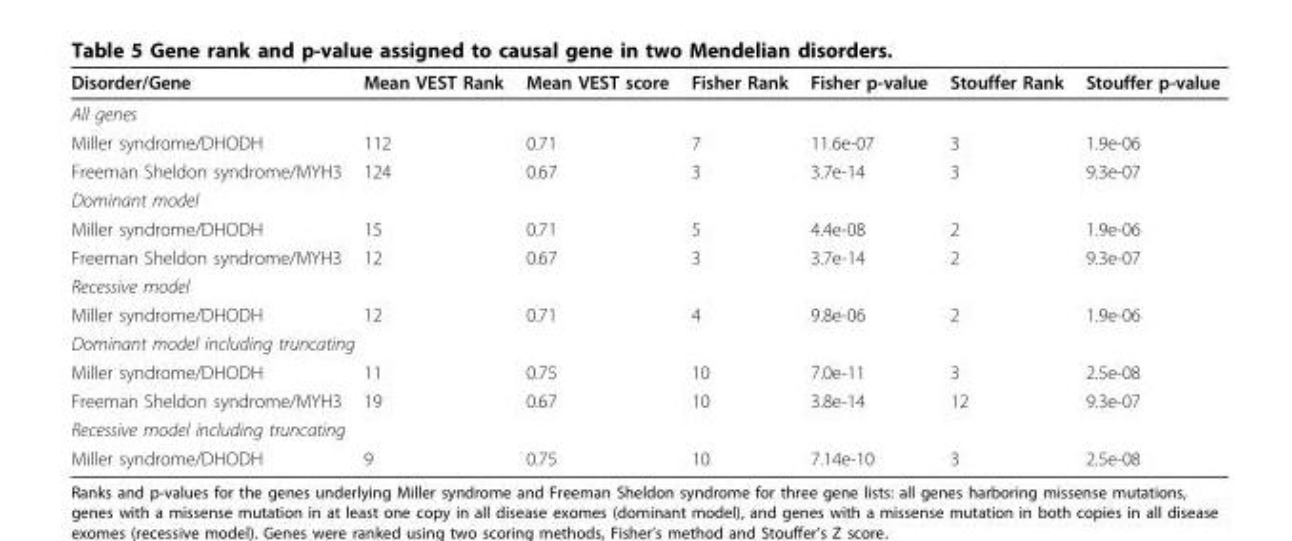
<table><thead><tr><td>Disorder/Gene</td><td>Mean VEST Rank</td><td>Mean VEST score</td><td>Fisher Rank</td><td>Fisher p-value</td><td>Stouffer Rank</td><td>Stouffer p-value</td></tr></thead><tbody><tr><td colspan="7">All genes</td></tr><tr><td>Miller syndrome/DHODH</td><td>112</td><td>0.71</td><td>7</td><td>11.6e-07</td><td>3</td><td>1.9e-06</td></tr><tr><td>Freeman Sheldon syndrome/MYH3</td><td>124</td><td>0.67</td><td>3</td><td>3.7e-14</td><td>3</td><td>9.3e-07</td></tr><tr><td colspan="7">Dominant model</td></tr><tr><td>Miller syndrome/DHODH</td><td>15</td><td>0.71</td><td>5</td><td>4.4e-08</td><td>2</td><td>1.9e-06</td></tr><tr><td>Freeman Sheldon syndrome/MYH3</td><td>12</td><td>0.67</td><td>3</td><td>3.7e-14</td><td>2</td><td>9.3e-07</td></tr><tr><td colspan="7">Recessive model</td></tr><tr><td>Miller syndrome/DHODH</td><td>12</td><td>0.71</td><td>4</td><td>9.8e-06</td><td>2</td><td>1.9e-06</td></tr><tr><td colspan="7">Dominant model including truncating</td></tr><tr><td>Miller syndrome/DHODH</td><td>11</td><td>0.75</td><td>10</td><td>7.0e-11</td><td>3</td><td>2.5e-08</td></tr><tr><td>Freeman Sheldon syndrome/MYH3</td><td>19</td><td>0.67</td><td>10</td><td>3.8e-14</td><td>12</td><td>9.3e-07</td></tr><tr><td colspan="7">Recessive model including truncating</td></tr><tr><td>Miller syndrome/DHODH</td><td>9</td><td>0.75</td><td>10</td><td>7.14e-10</td><td>3</td><td>2.5e-08</td></tr></tbody></table>